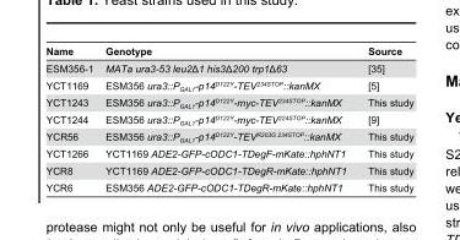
<table><thead><tr><td>Name</td><td>Genotype</td><td>Source</td></tr></thead><tbody><tr><td>ESM356-1</td><td>MATa ura3-53 leu2Δ1 his3Δ200 trp1Δ63</td><td>[35]</td></tr><tr><td>YCT1169</td><td>ESM356 ura3::P<sub>GAL1</sub>-p14<sup>D122Y</sup>-TEV<sup>234STOP</sup>::kanMX</td><td>[5]</td></tr><tr><td>YCT1243</td><td>ESM356 ura3::P<sub>GAL1</sub>-p14<sup>D122Y</sup>-myc-TEV<sup>234STOP</sup>::kanMX</td><td>This study</td></tr><tr><td>YCT1244</td><td>ESM356 ura3::P<sub>GAL1</sub>-p14<sup>D122Y</sup>-myc-TEV<sup>224STOP</sup>::kanMX</td><td>[9]</td></tr><tr><td>YCR56</td><td>ESM356 ura3::P<sub>GAL1</sub>-p14<sup>D122Y</sup>-TEV<sup>R203G 234STOP</sup>::kanMX</td><td>This study</td></tr><tr><td>YCT1266</td><td>YCT1169 ADE2-GFP-cODC1-TDegF-mKate::hphNT1</td><td>This study</td></tr><tr><td>YCR8</td><td>YCT1169 ADE2-GFP-cODC1-TDegR-mKate::hphNT1</td><td>This study</td></tr><tr><td>YCR6</td><td>ESM356 ADE2-GFP-cODC1-TDegR-mKate::hphNT1</td><td>This study</td></tr></tbody></table>